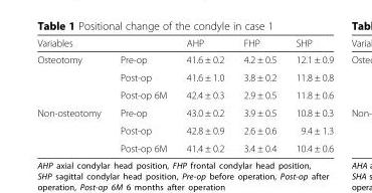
<table><thead><tr><td>Variables</td><td></td><td>AHP</td><td>FHP</td><td>SHP</td></tr></thead><tbody><tr><td rowspan="3">Osteotomy</td><td>Pre-op</td><td>41.6 ± 0.2</td><td>4.2 ± 0.5</td><td>12.1 ± 0.9</td></tr><tr><td>Post-op</td><td>41.6 ± 1.0</td><td>3.8 ± 0.2</td><td>11.8 ± 0.8</td></tr><tr><td>Post-op 6M</td><td>42.4 ± 0.3</td><td>2.9 ± 0.5</td><td>11.8 ± 0.6</td></tr><tr><td rowspan="3">Non-osteotomy</td><td>Pre-op</td><td>43.0 ± 0.2</td><td>3.9 ± 0.5</td><td>10.8 ± 0.3</td></tr><tr><td>Post-op</td><td>42.8 ± 0.9</td><td>2.6 ± 0.6</td><td>9.4 ± 1.3</td></tr><tr><td>Post-op 6M</td><td>41.4 ± 0.2</td><td>3.4 ± 0.4</td><td>10.4 ± 0.6</td></tr></tbody></table>